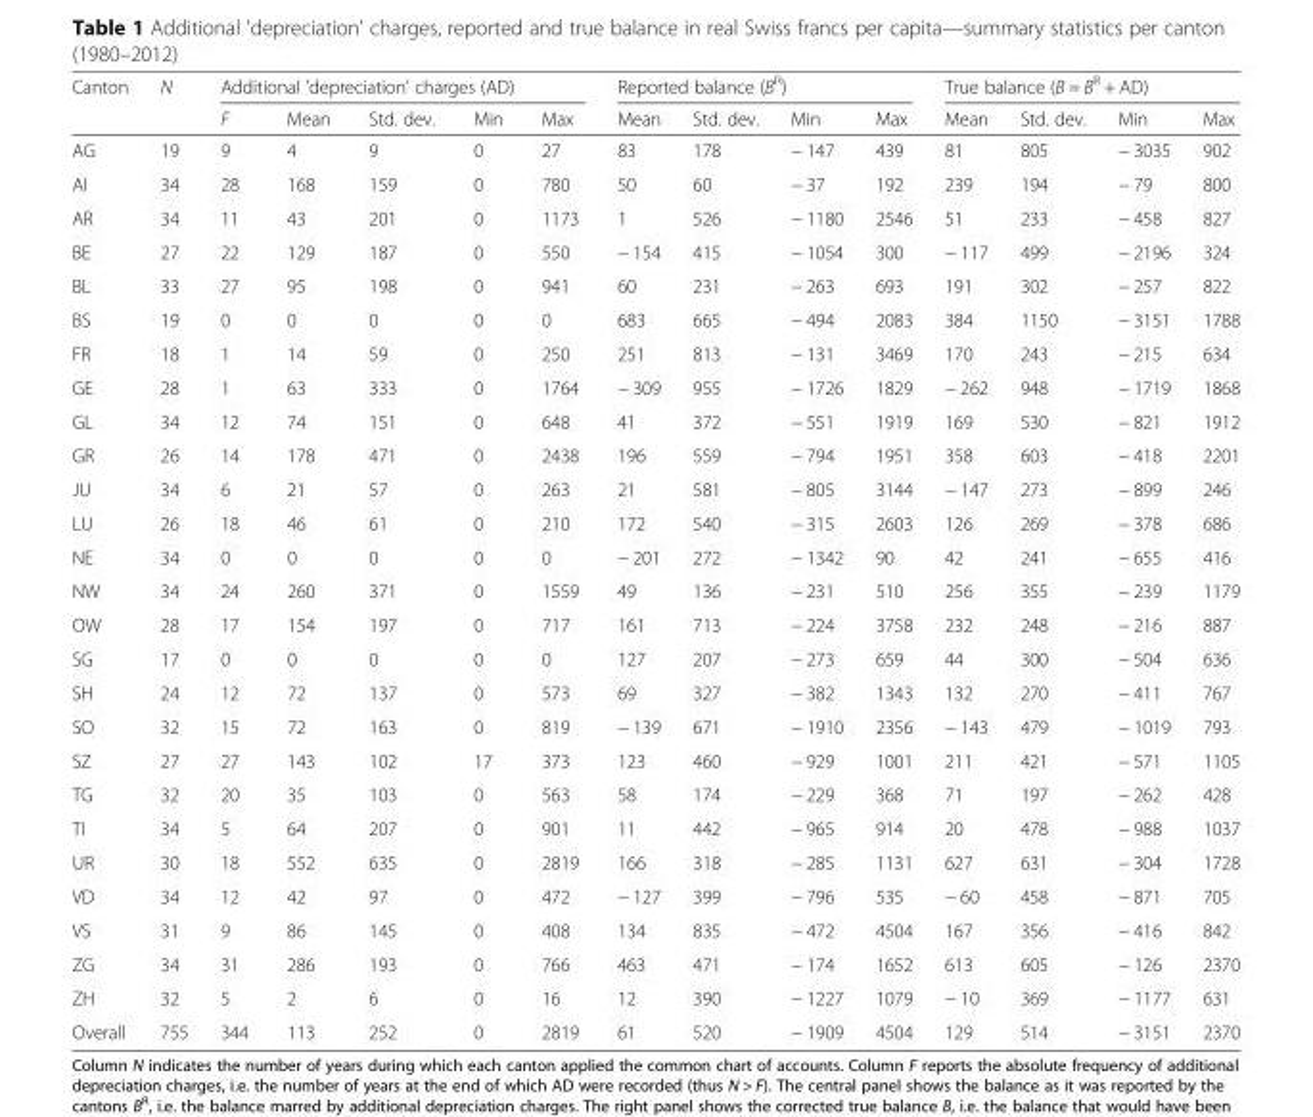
<table><thead><tr><td rowspan="2">Canton</td><td rowspan="2">N</td><td colspan="5">Additional &#x27;depreciation&#x27; charges (AD)</td><td colspan="4">Reported balance (B<sup>R</sup>)</td><td colspan="4">True balance (B = B<sup>R</sup> + AD)</td></tr><tr><td>F</td><td>Mean</td><td>Std. dev.</td><td>Min</td><td>Max</td><td>Mean</td><td>Std. dev.</td><td>Min</td><td>Max</td><td>Mean</td><td>Std. dev.</td><td>Min</td><td>Max</td></tr></thead><tbody><tr><td>AG</td><td>19</td><td>9</td><td>4</td><td>9</td><td>0</td><td>27</td><td>83</td><td>178</td><td>− 147</td><td>439</td><td>81</td><td>805</td><td>− 3035</td><td>902</td></tr><tr><td>AI</td><td>34</td><td>28</td><td>168</td><td>159</td><td>0</td><td>780</td><td>50</td><td>60</td><td>− 37</td><td>192</td><td>239</td><td>194</td><td>− 79</td><td>800</td></tr><tr><td>AR</td><td>34</td><td>11</td><td>43</td><td>201</td><td>0</td><td>1173</td><td>1</td><td>526</td><td>− 1180</td><td>2546</td><td>51</td><td>233</td><td>− 458</td><td>827</td></tr><tr><td>BE</td><td>27</td><td>22</td><td>129</td><td>187</td><td>0</td><td>550</td><td>− 154</td><td>415</td><td>− 1054</td><td>300</td><td>− 117</td><td>499</td><td>− 2196</td><td>324</td></tr><tr><td>BL</td><td>33</td><td>27</td><td>95</td><td>198</td><td>0</td><td>941</td><td>60</td><td>231</td><td>− 263</td><td>693</td><td>191</td><td>302</td><td>− 257</td><td>822</td></tr><tr><td>BS</td><td>19</td><td>0</td><td>0</td><td>0</td><td>0</td><td>0</td><td>683</td><td>665</td><td>− 494</td><td>2083</td><td>384</td><td>1150</td><td>− 3151</td><td>1788</td></tr><tr><td>FR</td><td>18</td><td>1</td><td>14</td><td>59</td><td>0</td><td>250</td><td>251</td><td>813</td><td>− 131</td><td>3469</td><td>170</td><td>243</td><td>− 215</td><td>634</td></tr><tr><td>GE</td><td>28</td><td>1</td><td>63</td><td>333</td><td>0</td><td>1764</td><td>− 309</td><td>955</td><td>− 1726</td><td>1829</td><td>− 262</td><td>948</td><td>− 1719</td><td>1868</td></tr><tr><td>GL</td><td>34</td><td>12</td><td>74</td><td>151</td><td>0</td><td>648</td><td>41</td><td>372</td><td>− 551</td><td>1919</td><td>169</td><td>530</td><td>− 821</td><td>1912</td></tr><tr><td>GR</td><td>26</td><td>14</td><td>178</td><td>471</td><td>0</td><td>2438</td><td>196</td><td>559</td><td>− 794</td><td>1951</td><td>358</td><td>603</td><td>− 418</td><td>2201</td></tr><tr><td>JU</td><td>34</td><td>6</td><td>21</td><td>57</td><td>0</td><td>263</td><td>21</td><td>581</td><td>− 805</td><td>3144</td><td>− 147</td><td>273</td><td>− 899</td><td>246</td></tr><tr><td>LU</td><td>26</td><td>18</td><td>46</td><td>61</td><td>0</td><td>210</td><td>172</td><td>540</td><td>− 315</td><td>2603</td><td>126</td><td>269</td><td>− 378</td><td>686</td></tr><tr><td>NE</td><td>34</td><td>0</td><td>0</td><td>0</td><td>0</td><td>0</td><td>− 201</td><td>272</td><td>− 1342</td><td>90</td><td>42</td><td>241</td><td>− 655</td><td>416</td></tr><tr><td>NW</td><td>34</td><td>24</td><td>260</td><td>371</td><td>0</td><td>1559</td><td>49</td><td>136</td><td>− 231</td><td>510</td><td>256</td><td>355</td><td>− 239</td><td>1179</td></tr><tr><td>OW</td><td>28</td><td>17</td><td>154</td><td>197</td><td>0</td><td>717</td><td>161</td><td>713</td><td>− 224</td><td>3758</td><td>232</td><td>248</td><td>− 216</td><td>887</td></tr><tr><td>SG</td><td>17</td><td>0</td><td>0</td><td>0</td><td>0</td><td>0</td><td>127</td><td>207</td><td>− 273</td><td>659</td><td>44</td><td>300</td><td>− 504</td><td>636</td></tr><tr><td>SH</td><td>24</td><td>12</td><td>72</td><td>137</td><td>0</td><td>573</td><td>69</td><td>327</td><td>− 382</td><td>1343</td><td>132</td><td>270</td><td>− 411</td><td>767</td></tr><tr><td>SO</td><td>32</td><td>15</td><td>72</td><td>163</td><td>0</td><td>819</td><td>− 139</td><td>671</td><td>− 1910</td><td>2356</td><td>− 143</td><td>479</td><td>− 1019</td><td>793</td></tr><tr><td>SZ</td><td>27</td><td>27</td><td>143</td><td>102</td><td>17</td><td>373</td><td>123</td><td>460</td><td>− 929</td><td>1001</td><td>211</td><td>421</td><td>− 571</td><td>1105</td></tr><tr><td>TG</td><td>32</td><td>20</td><td>35</td><td>103</td><td>0</td><td>563</td><td>58</td><td>174</td><td>− 229</td><td>368</td><td>71</td><td>197</td><td>− 262</td><td>428</td></tr><tr><td>TI</td><td>34</td><td>5</td><td>64</td><td>207</td><td>0</td><td>901</td><td>11</td><td>442</td><td>− 965</td><td>914</td><td>20</td><td>478</td><td>− 988</td><td>1037</td></tr><tr><td>UR</td><td>30</td><td>18</td><td>552</td><td>635</td><td>0</td><td>2819</td><td>166</td><td>318</td><td>− 285</td><td>1131</td><td>627</td><td>631</td><td>− 304</td><td>1728</td></tr><tr><td>VD</td><td>34</td><td>12</td><td>42</td><td>97</td><td>0</td><td>472</td><td>− 127</td><td>399</td><td>− 796</td><td>535</td><td>− 60</td><td>458</td><td>− 871</td><td>705</td></tr><tr><td>VS</td><td>31</td><td>9</td><td>86</td><td>145</td><td>0</td><td>408</td><td>134</td><td>835</td><td>− 472</td><td>4504</td><td>167</td><td>356</td><td>− 416</td><td>842</td></tr><tr><td>ZG</td><td>34</td><td>31</td><td>286</td><td>193</td><td>0</td><td>766</td><td>463</td><td>471</td><td>− 174</td><td>1652</td><td>613</td><td>605</td><td>− 126</td><td>2370</td></tr><tr><td>ZH</td><td>32</td><td>5</td><td>2</td><td>6</td><td>0</td><td>16</td><td>12</td><td>390</td><td>− 1227</td><td>1079</td><td>− 10</td><td>369</td><td>− 1177</td><td>631</td></tr><tr><td>Overall</td><td>755</td><td>344</td><td>113</td><td>252</td><td>0</td><td>2819</td><td>61</td><td>520</td><td>− 1909</td><td>4504</td><td>129</td><td>514</td><td>− 3151</td><td>2370</td></tr></tbody></table>